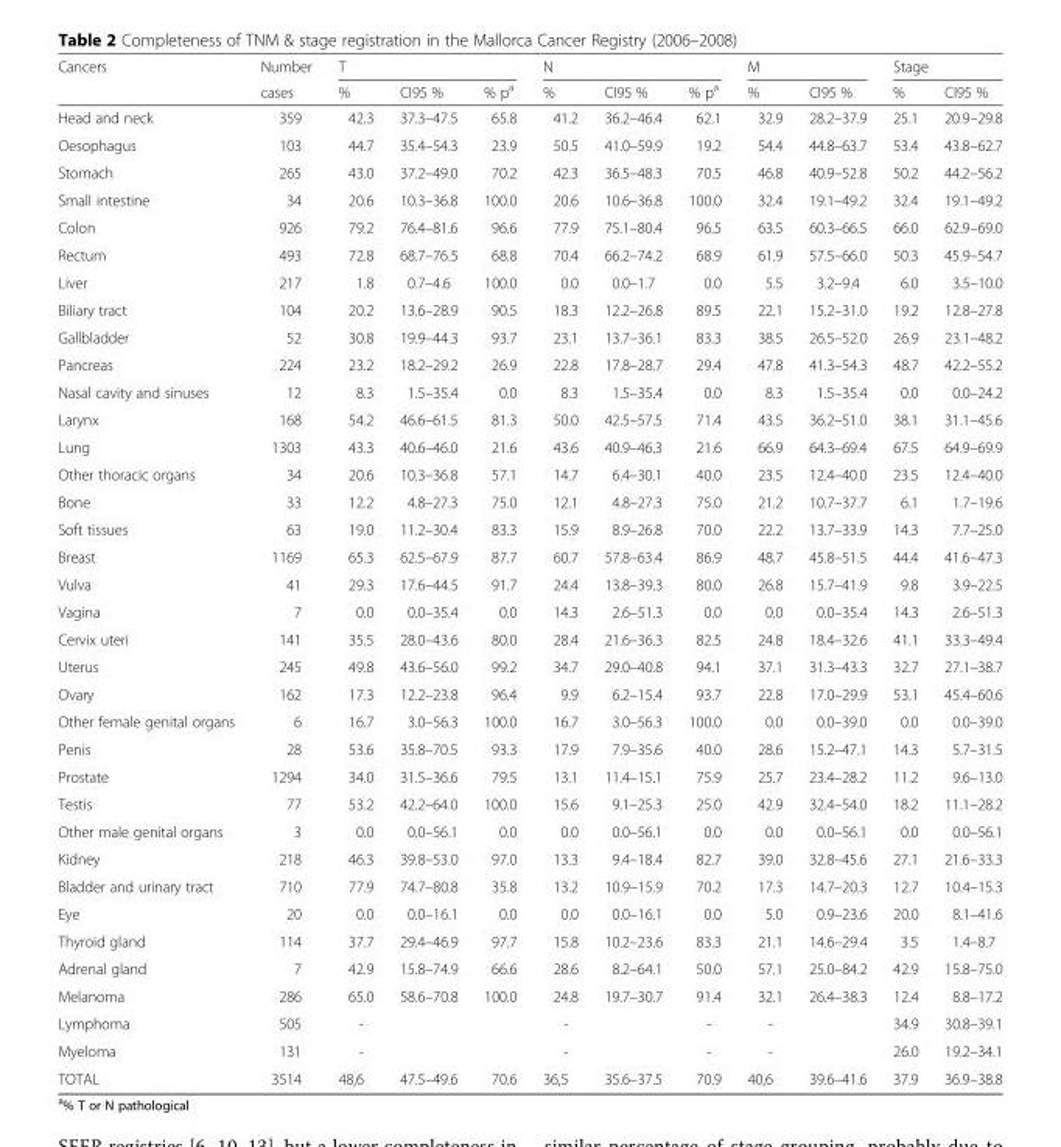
<table><thead><tr><td rowspan="2">Cancers</td><td rowspan="2">Number cases</td><td colspan="3">T</td><td colspan="3">N</td><td colspan="2">M</td><td colspan="2">Stage</td></tr><tr><td>%</td><td>CI95 %</td><td>% p<sup>a</sup></td><td>%</td><td>CI95 %</td><td>% p<sup>a</sup></td><td>%</td><td>CI95 %</td><td>%</td><td>CI95 %</td></tr></thead><tbody><tr><td>Head and neck</td><td>359</td><td>42.3</td><td>37.3–47.5</td><td>65.8</td><td>41.2</td><td>36.2–46.4</td><td>62.1</td><td>32.9</td><td>28.2–37.9</td><td>25.1</td><td>20.9–29.8</td></tr><tr><td>Oesophagus</td><td>103</td><td>44.7</td><td>35.4–54.3</td><td>23.9</td><td>50.5</td><td>41.0–59.9</td><td>19.2</td><td>54.4</td><td>44.8–63.7</td><td>53.4</td><td>43.8–62.7</td></tr><tr><td>Stomach</td><td>265</td><td>43.0</td><td>37.2–49.0</td><td>70.2</td><td>42.3</td><td>36.5–48.3</td><td>70.5</td><td>46.8</td><td>40.9–52.8</td><td>50.2</td><td>44.2–56.2</td></tr><tr><td>Small intestine</td><td>34</td><td>20.6</td><td>10.3–36.8</td><td>100.0</td><td>20.6</td><td>10.6–36.8</td><td>100.0</td><td>32.4</td><td>19.1–49.2</td><td>32.4</td><td>19.1–49.2</td></tr><tr><td>Colon</td><td>926</td><td>79.2</td><td>76.4–81.6</td><td>96.6</td><td>77.9</td><td>75.1–80.4</td><td>96.5</td><td>63.5</td><td>60.3–66.5</td><td>66.0</td><td>62.9–69.0</td></tr><tr><td>Rectum</td><td>493</td><td>72.8</td><td>68.7–76.5</td><td>68.8</td><td>70.4</td><td>66.2–74.2</td><td>68.9</td><td>61.9</td><td>57.5–66.0</td><td>50.3</td><td>45.9–54.7</td></tr><tr><td>Liver</td><td>217</td><td>1.8</td><td>0.7–4.6</td><td>100.0</td><td>0.0</td><td>0.0–1.7</td><td>0.0</td><td>5.5</td><td>3.2–9.4</td><td>6.0</td><td>3.5–10.0</td></tr><tr><td>Biliary tract</td><td>104</td><td>20.2</td><td>13.6–28.9</td><td>90.5</td><td>18.3</td><td>12.2–26.8</td><td>89.5</td><td>22.1</td><td>15.2–31.0</td><td>19.2</td><td>12.8–27.8</td></tr><tr><td>Gallbladder</td><td>52</td><td>30.8</td><td>19.9–44.3</td><td>93.7</td><td>23.1</td><td>13.7–36.1</td><td>83.3</td><td>38.5</td><td>26.5–52.0</td><td>26.9</td><td>23.1–48.2</td></tr><tr><td>Pancreas</td><td>224</td><td>23.2</td><td>18.2–29.2</td><td>26.9</td><td>22.8</td><td>17.8–28.7</td><td>29.4</td><td>47.8</td><td>41.3–54.3</td><td>48.7</td><td>42.2–55.2</td></tr><tr><td>Nasal cavity and sinuses</td><td>12</td><td>8.3</td><td>1.5–35.4</td><td>0.0</td><td>8.3</td><td>1.5–35.4</td><td>0.0</td><td>8.3</td><td>1.5–35.4</td><td>0.0</td><td>0.0–24.2</td></tr><tr><td>Larynx</td><td>168</td><td>54.2</td><td>46.6–61.5</td><td>81.3</td><td>50.0</td><td>42.5–57.5</td><td>71.4</td><td>43.5</td><td>36.2–51.0</td><td>38.1</td><td>31.1–45.6</td></tr><tr><td>Lung</td><td>1303</td><td>43.3</td><td>40.6–46.0</td><td>21.6</td><td>43.6</td><td>40.9–46.3</td><td>21.6</td><td>66.9</td><td>64.3–69.4</td><td>67.5</td><td>64.9–69.9</td></tr><tr><td>Other thoracic organs</td><td>34</td><td>20.6</td><td>10.3–36.8</td><td>57.1</td><td>14.7</td><td>6.4–30.1</td><td>40.0</td><td>23.5</td><td>12.4–40.0</td><td>23.5</td><td>12.4–40.0</td></tr><tr><td>Bone</td><td>33</td><td>12.2</td><td>4.8–27.3</td><td>75.0</td><td>12.1</td><td>4.8–27.3</td><td>75.0</td><td>21.2</td><td>10.7–37.7</td><td>6.1</td><td>1.7–19.6</td></tr><tr><td>Soft tissues</td><td>63</td><td>19.0</td><td>11.2–30.4</td><td>83.3</td><td>15.9</td><td>8.9–26.8</td><td>70.0</td><td>22.2</td><td>13.7–33.9</td><td>14.3</td><td>7.7–25.0</td></tr><tr><td>Breast</td><td>1169</td><td>65.3</td><td>62.5–67.9</td><td>87.7</td><td>60.7</td><td>57.8–63.4</td><td>86.9</td><td>48.7</td><td>45.8–51.5</td><td>44.4</td><td>41.6–47.3</td></tr><tr><td>Vulva</td><td>41</td><td>29.3</td><td>17.6–44.5</td><td>91.7</td><td>24.4</td><td>13.8–39.3</td><td>80.0</td><td>26.8</td><td>15.7–41.9</td><td>9.8</td><td>3.9–22.5</td></tr><tr><td>Vagina</td><td>7</td><td>0.0</td><td>0.0–35.4</td><td>0.0</td><td>14.3</td><td>2.6–51.3</td><td>0.0</td><td>0.0</td><td>0.0–35.4</td><td>14.3</td><td>2.6–51.3</td></tr><tr><td>Cervix uteri</td><td>141</td><td>35.5</td><td>28.0–43.6</td><td>80.0</td><td>28.4</td><td>21.6–36.3</td><td>82.5</td><td>24.8</td><td>18.4–32.6</td><td>41.1</td><td>33.3–49.4</td></tr><tr><td>Uterus</td><td>245</td><td>49.8</td><td>43.6–56.0</td><td>99.2</td><td>34.7</td><td>29.0–40.8</td><td>94.1</td><td>37.1</td><td>31.3–43.3</td><td>32.7</td><td>27.1–38.7</td></tr><tr><td>Ovary</td><td>162</td><td>17.3</td><td>12.2–23.8</td><td>96.4</td><td>9.9</td><td>6.2–15.4</td><td>93.7</td><td>22.8</td><td>17.0–29.9</td><td>53.1</td><td>45.4–60.6</td></tr><tr><td>Other female genital organs</td><td>6</td><td>16.7</td><td>3.0–56.3</td><td>100.0</td><td>16.7</td><td>3.0–56.3</td><td>100.0</td><td>0.0</td><td>0.0–39.0</td><td>0.0</td><td>0.0–39.0</td></tr><tr><td>Penis</td><td>28</td><td>53.6</td><td>35.8–70.5</td><td>93.3</td><td>17.9</td><td>7.9–35.6</td><td>40.0</td><td>28.6</td><td>15.2–47.1</td><td>14.3</td><td>5.7–31.5</td></tr><tr><td>Prostate</td><td>1294</td><td>34.0</td><td>31.5–36.6</td><td>79.5</td><td>13.1</td><td>11.4–15.1</td><td>75.9</td><td>25.7</td><td>23.4–28.2</td><td>11.2</td><td>9.6–13.0</td></tr><tr><td>Testis</td><td>77</td><td>53.2</td><td>42.2–64.0</td><td>100.0</td><td>15.6</td><td>9.1–25.3</td><td>25.0</td><td>42.9</td><td>32.4–54.0</td><td>18.2</td><td>11.1–28.2</td></tr><tr><td>Other male genital organs</td><td>3</td><td>0.0</td><td>0.0–56.1</td><td>0.0</td><td>0.0</td><td>0.0–56.1</td><td>0.0</td><td>0.0</td><td>0.0–56.1</td><td>0.0</td><td>0.0–56.1</td></tr><tr><td>Kidney</td><td>218</td><td>46.3</td><td>39.8–53.0</td><td>97.0</td><td>13.3</td><td>9.4–18.4</td><td>82.7</td><td>39.0</td><td>32.8–45.6</td><td>27.1</td><td>21.6–33.3</td></tr><tr><td>Bladder and urinary tract</td><td>710</td><td>77.9</td><td>74.7–80.8</td><td>35.8</td><td>13.2</td><td>10.9–15.9</td><td>70.2</td><td>17.3</td><td>14.7–20.3</td><td>12.7</td><td>10.4–15.3</td></tr><tr><td>Eye</td><td>20</td><td>0.0</td><td>0.0–16.1</td><td>0.0</td><td>0.0</td><td>0.0–16.1</td><td>0.0</td><td>5.0</td><td>0.9–23.6</td><td>20.0</td><td>8.1–41.6</td></tr><tr><td>Thyroid gland</td><td>114</td><td>37.7</td><td>29.4–46.9</td><td>97.7</td><td>15.8</td><td>10.2–23.6</td><td>83.3</td><td>21.1</td><td>14.6–29.4</td><td>3.5</td><td>1.4–8.7</td></tr><tr><td>Adrenal gland</td><td>7</td><td>42.9</td><td>15.8–74.9</td><td>66.6</td><td>28.6</td><td>8.2–64.1</td><td>50.0</td><td>57.1</td><td>25.0–84.2</td><td>42.9</td><td>15.8–75.0</td></tr><tr><td>Melanoma</td><td>286</td><td>65.0</td><td>58.6–70.8</td><td>100.0</td><td>24.8</td><td>19.7–30.7</td><td>91.4</td><td>32.1</td><td>26.4–38.3</td><td>12.4</td><td>8.8–17.2</td></tr><tr><td>Lymphoma</td><td>505</td><td>-</td><td></td><td></td><td>-</td><td></td><td>-</td><td>-</td><td></td><td>34.9</td><td>30.8–39.1</td></tr><tr><td>Myeloma</td><td>131</td><td>-</td><td></td><td></td><td>-</td><td></td><td>-</td><td>-</td><td></td><td>26.0</td><td>19.2–34.1</td></tr><tr><td>TOTAL</td><td>3514</td><td>48,6</td><td>47.5–49.6</td><td>70.6</td><td>36,5</td><td>35.6–37.5</td><td>70.9</td><td>40,6</td><td>39.6–41.6</td><td>37.9</td><td>36.9–38.8</td></tr></tbody></table>